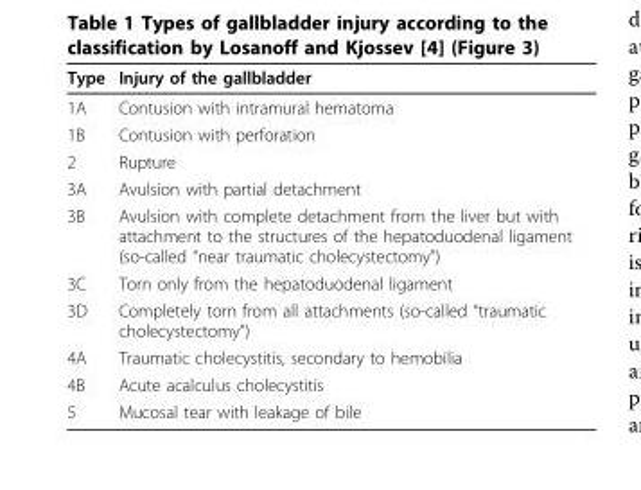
<table><thead><tr><td>Type</td><td>Injury of the gallbladder</td></tr></thead><tbody><tr><td>1A</td><td>Contusion with intramural hematoma</td></tr><tr><td>1B</td><td>Contusion with perforation</td></tr><tr><td>2</td><td>Rupture</td></tr><tr><td>3A</td><td>Avulsion with partial detachment</td></tr><tr><td>3B</td><td>Avulsion with complete detachment from the liver but with attachment to the structures of the hepatoduodenal ligament (so-called “near traumatic cholecystectomy”)</td></tr><tr><td>3C</td><td>Torn only from the hepatoduodenal ligament</td></tr><tr><td>3D</td><td>Completely torn from all attachments (so-called “traumatic cholecystectomy”)</td></tr><tr><td>4A</td><td>Traumatic cholecystitis, secondary to hemobilia</td></tr><tr><td>4B</td><td>Acute acalculus cholecystitis</td></tr><tr><td>5</td><td>Mucosal tear with leakage of bile</td></tr></tbody></table>